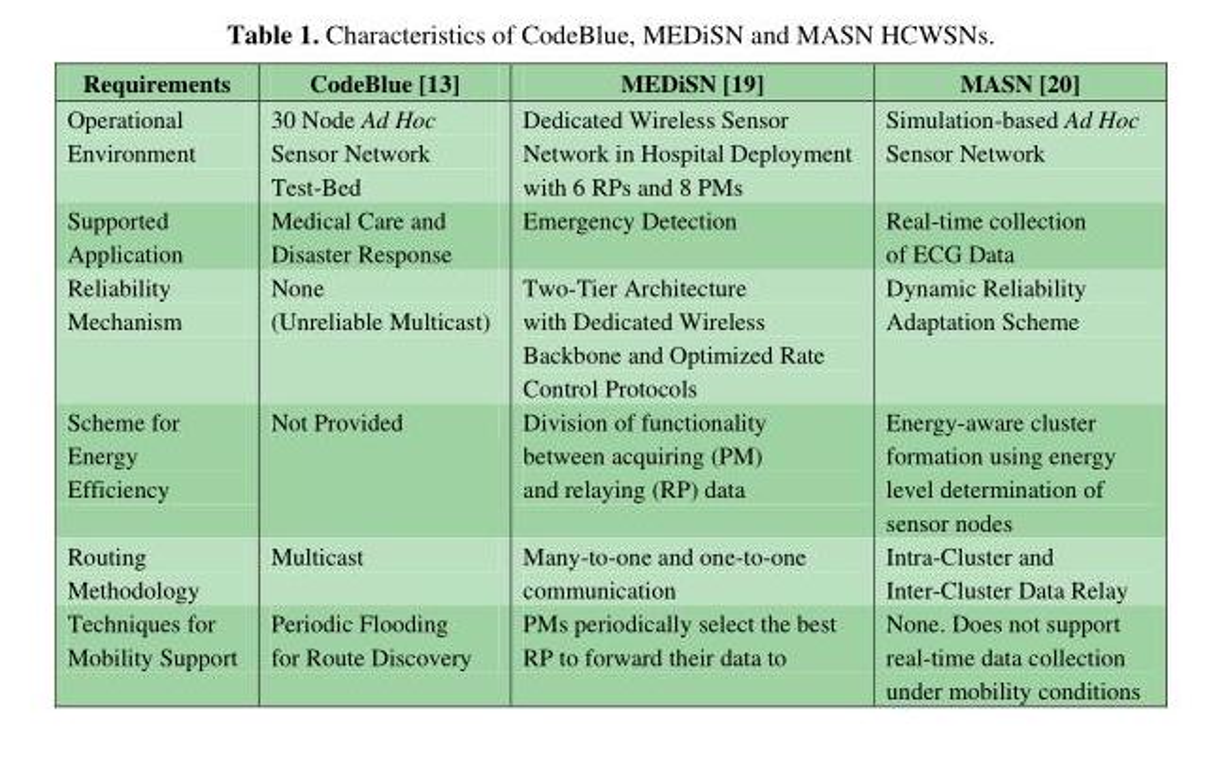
<table><thead><tr><td>Requirements</td><td>CodeBlue [13]</td><td>MEDiSN [19]</td><td>MASN [20]</td></tr></thead><tbody><tr><td>Operational Environment</td><td>30 Node Ad Hoc Sensor Network Test-Bed</td><td>Dedicated Wireless Sensor Network in Hospital Deployment with 6 RPs and 8 PMs</td><td>Simulation-based Ad Hoc Sensor Network</td></tr><tr><td>Supported Application</td><td>Medical Care and Disaster Response</td><td>Emergency Detection</td><td>Real-time collection of ECG Data</td></tr><tr><td>Reliability Mechanism</td><td>None (Unreliable Multicast)</td><td>Two-Tier Architecture with Dedicated Wireless Backbone and Optimized Rate Control Protocols</td><td>Dynamic Reliability Adaptation Scheme</td></tr><tr><td>Scheme for Energy Efficiency</td><td>Not Provided</td><td>Division of functionality between acquiring (PM) and relaying (RP) data</td><td>Energy-aware cluster formation using energy level determination of sensor nodes</td></tr><tr><td>Routing Methodology</td><td>Multicast</td><td>Many-to-one and one-to-one communication</td><td>Intra-Cluster and Inter-Cluster Data Relay</td></tr><tr><td>Techniques for Mobility Support</td><td>Periodic Flooding for Route Discovery</td><td>PMs periodically select the best RP to forward their data to</td><td>None. Does not support real-time data collection under mobility conditions</td></tr></tbody></table>